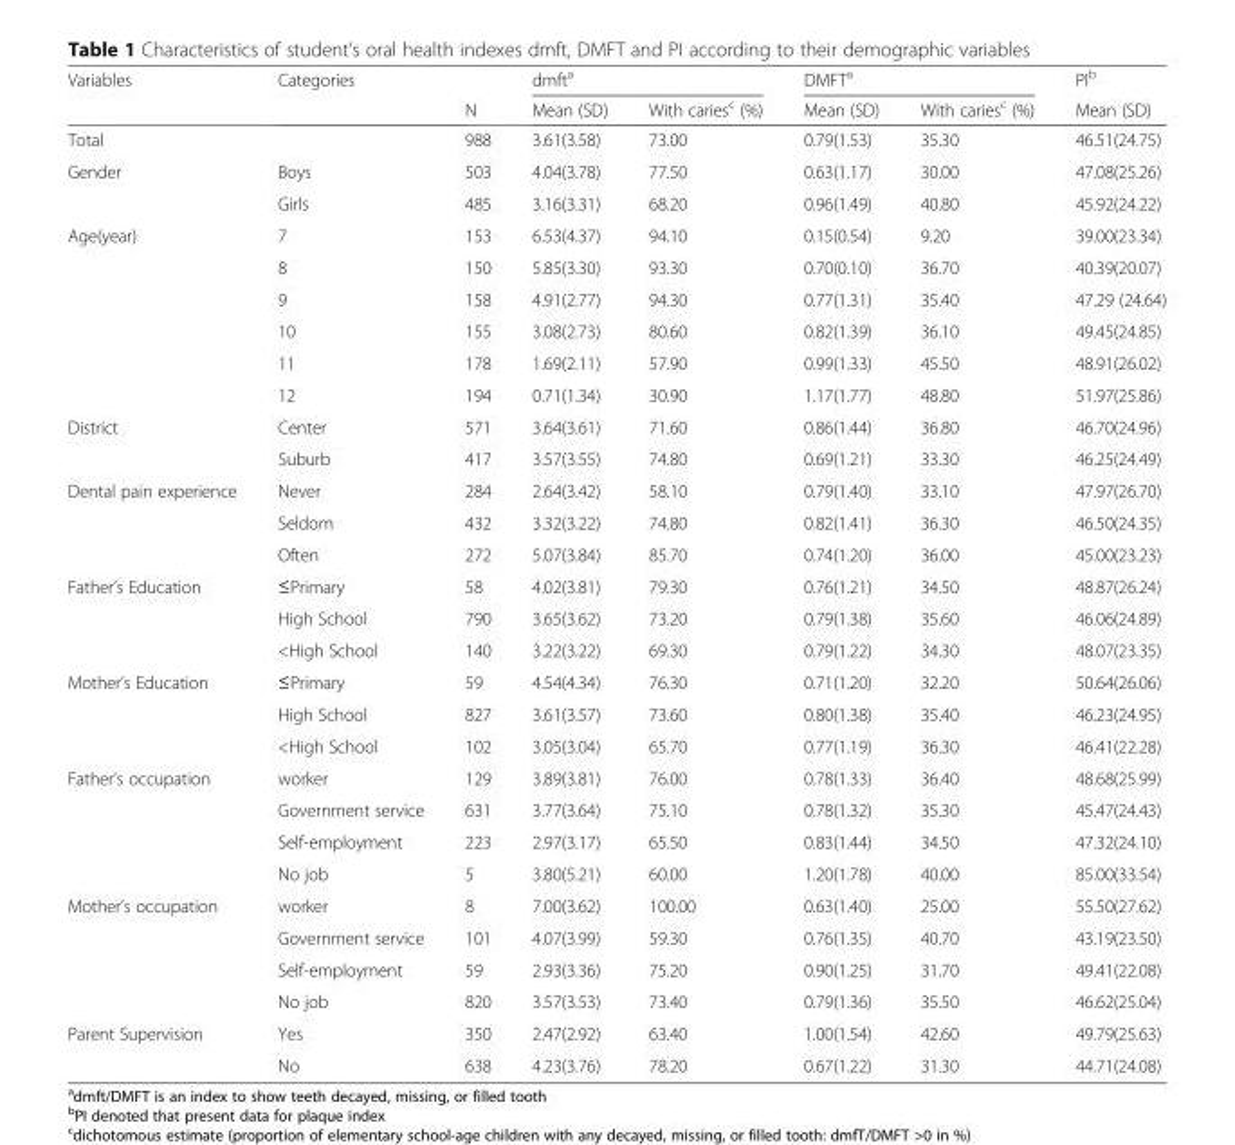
<table><thead><tr><td rowspan="2">Variables</td><td rowspan="2">Categories</td><td rowspan="2">N</td><td colspan="2">dmfta</td><td colspan="2">DMFTa</td><td rowspan="2">PI<sup>b</sup> Mean (SD)</td></tr><tr><td>Mean (SD)</td><td>With caries<sup>c</sup> (%)</td><td>Mean (SD)</td><td>With caries<sup>c</sup> (%)</td></tr></thead><tbody><tr><td>Total</td><td></td><td>988</td><td>3.61(3.58)</td><td>73.00</td><td>0.79(1.53)</td><td>35.30</td><td>46.51(24.75)</td></tr><tr><td rowspan="2">Gender</td><td>Boys</td><td>503</td><td>4.04(3.78)</td><td>77.50</td><td>0.63(1.17)</td><td>30.00</td><td>47.08(25.26)</td></tr><tr><td>Girls</td><td>485</td><td>3.16(3.31)</td><td>68.20</td><td>0.96(1.49)</td><td>40.80</td><td>45.92(24.22)</td></tr><tr><td rowspan="6">Age(year)</td><td>7</td><td>153</td><td>6.53(4.37)</td><td>94.10</td><td>0.15(0.54)</td><td>9.20</td><td>39.00(23.34)</td></tr><tr><td>8</td><td>150</td><td>5.85(3.30)</td><td>93.30</td><td>0.70(0.10)</td><td>36.70</td><td>40.39(20.07)</td></tr><tr><td>9</td><td>158</td><td>4.91(2.77)</td><td>94.30</td><td>0.77(1.31)</td><td>35.40</td><td>47.29 (24.64)</td></tr><tr><td>10</td><td>155</td><td>3.08(2.73)</td><td>80.60</td><td>0.82(1.39)</td><td>36.10</td><td>49.45(24.85)</td></tr><tr><td>11</td><td>178</td><td>1.69(2.11)</td><td>57.90</td><td>0.99(1.33)</td><td>45.50</td><td>48.91(26.02)</td></tr><tr><td>12</td><td>194</td><td>0.71(1.34)</td><td>30.90</td><td>1.17(1.77)</td><td>48.80</td><td>51.97(25.86)</td></tr><tr><td rowspan="2">District</td><td>Center</td><td>571</td><td>3.64(3.61)</td><td>71.60</td><td>0.86(1.44)</td><td>36.80</td><td>46.70(24.96)</td></tr><tr><td>Suburb</td><td>417</td><td>3.57(3.55)</td><td>74.80</td><td>0.69(1.21)</td><td>33.30</td><td>46.25(24.49)</td></tr><tr><td rowspan="3">Dental pain experience</td><td>Never</td><td>284</td><td>2.64(3.42)</td><td>58.10</td><td>0.79(1.40)</td><td>33.10</td><td>47.97(26.70)</td></tr><tr><td>Seldom</td><td>432</td><td>3.32(3.22)</td><td>74.80</td><td>0.82(1.41)</td><td>36.30</td><td>46.50(24.35)</td></tr><tr><td>Often</td><td>272</td><td>5.07(3.84)</td><td>85.70</td><td>0.74(1.20)</td><td>36.00</td><td>45.00(23.23)</td></tr><tr><td rowspan="3">Father’s Education</td><td>≤Primary</td><td>58</td><td>4.02(3.81)</td><td>79.30</td><td>0.76(1.21)</td><td>34.50</td><td>48.87(26.24)</td></tr><tr><td>High School</td><td>790</td><td>3.65(3.62)</td><td>73.20</td><td>0.79(1.38)</td><td>35.60</td><td>46.06(24.89)</td></tr><tr><td>&lt;High School</td><td>140</td><td>3.22(3.22)</td><td>69.30</td><td>0.79(1.22)</td><td>34.30</td><td>48.07(23.35)</td></tr><tr><td rowspan="3">Mother’s Education</td><td>≤Primary</td><td>59</td><td>4.54(4.34)</td><td>76.30</td><td>0.71(1.20)</td><td>32.20</td><td>50.64(26.06)</td></tr><tr><td>High School</td><td>827</td><td>3.61(3.57)</td><td>73.60</td><td>0.80(1.38)</td><td>35.40</td><td>46.23(24.95)</td></tr><tr><td>&lt;High School</td><td>102</td><td>3.05(3.04)</td><td>65.70</td><td>0.77(1.19)</td><td>36.30</td><td>46.41(22.28)</td></tr><tr><td rowspan="4">Father’s occupation</td><td>worker</td><td>129</td><td>3.89(3.81)</td><td>76.00</td><td>0.78(1.33)</td><td>36.40</td><td>48.68(25.99)</td></tr><tr><td>Government service</td><td>631</td><td>3.77(3.64)</td><td>75.10</td><td>0.78(1.32)</td><td>35.30</td><td>45.47(24.43)</td></tr><tr><td>Self-employment</td><td>223</td><td>2.97(3.17)</td><td>65.50</td><td>0.83(1.44)</td><td>34.50</td><td>47.32(24.10)</td></tr><tr><td>No job</td><td>5</td><td>3.80(5.21)</td><td>60.00</td><td>1.20(1.78)</td><td>40.00</td><td>85.00(33.54)</td></tr><tr><td rowspan="4">Mother’s occupation</td><td>worker</td><td>8</td><td>7.00(3.62)</td><td>100.00</td><td>0.63(1.40)</td><td>25.00</td><td>55.50(27.62)</td></tr><tr><td>Government service</td><td>101</td><td>4.07(3.99)</td><td>59.30</td><td>0.76(1.35)</td><td>40.70</td><td>43.19(23.50)</td></tr><tr><td>Self-employment</td><td>59</td><td>2.93(3.36)</td><td>75.20</td><td>0.90(1.25)</td><td>31.70</td><td>49.41(22.08)</td></tr><tr><td>No job</td><td>820</td><td>3.57(3.53)</td><td>73.40</td><td>0.79(1.36)</td><td>35.50</td><td>46.62(25.04)</td></tr><tr><td rowspan="2">Parent Supervision</td><td>Yes</td><td>350</td><td>2.47(2.92)</td><td>63.40</td><td>1.00(1.54)</td><td>42.60</td><td>49.79(25.63)</td></tr><tr><td>No</td><td>638</td><td>4.23(3.76)</td><td>78.20</td><td>0.67(1.22)</td><td>31.30</td><td>44.71(24.08)</td></tr></tbody></table>